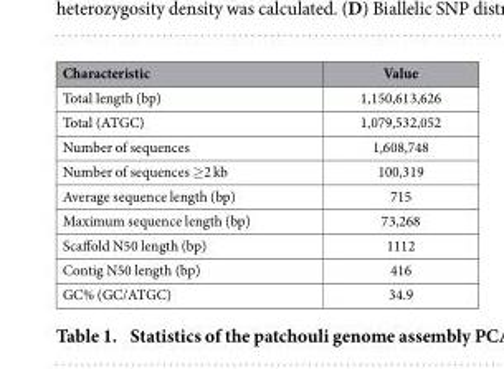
<table><thead><tr><td>Characteristic</td><td>Value</td></tr></thead><tbody><tr><td>Total length (bp)</td><td>1,150,613,626</td></tr><tr><td>Total (ATGC)</td><td>1,079,532,052</td></tr><tr><td>Number of sequences</td><td>1,608,748</td></tr><tr><td>Number of sequences ≥ 2 kb</td><td>100,319</td></tr><tr><td>Average sequence length (bp)</td><td>715</td></tr><tr><td>Maximum sequence length (bp)</td><td>73,268</td></tr><tr><td>Scaffold N50 length (bp)</td><td>1112</td></tr><tr><td>Contig N50 length (bp)</td><td>416</td></tr><tr><td>GC% (GC/ATGC)</td><td>34.9</td></tr></tbody></table>